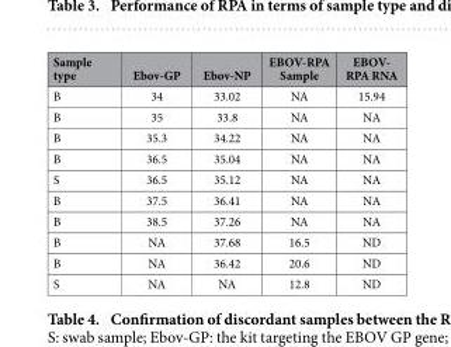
<table><thead><tr><td>Sample type</td><td>Ebov-GP</td><td>Ebov-NP</td><td>EBOV-RPA Sample</td><td>EBOV- RPA RNA</td></tr></thead><tbody><tr><td>B</td><td>34</td><td>33.02</td><td>NA</td><td>15.94</td></tr><tr><td>B</td><td>35</td><td>33.8</td><td>NA</td><td>NA</td></tr><tr><td>B</td><td>35.3</td><td>34.22</td><td>NA</td><td>NA</td></tr><tr><td>B</td><td>36.5</td><td>35.04</td><td>NA</td><td>NA</td></tr><tr><td>S</td><td>36.5</td><td>35.12</td><td>NA</td><td>NA</td></tr><tr><td>B</td><td>37.5</td><td>36.41</td><td>NA</td><td>NA</td></tr><tr><td>B</td><td>38.5</td><td>37.26</td><td>NA</td><td>NA</td></tr><tr><td>B</td><td>NA</td><td>37.68</td><td>16.5</td><td>ND</td></tr><tr><td>B</td><td>NA</td><td>36.42</td><td>20.6</td><td>ND</td></tr><tr><td>S</td><td>NA</td><td>NA</td><td>12.8</td><td>ND</td></tr></tbody></table>